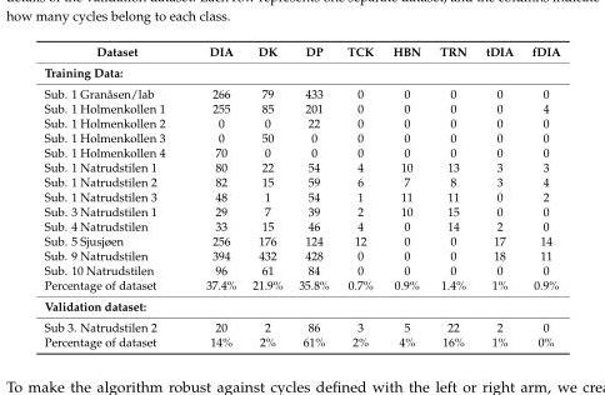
<table><thead><tr><td rowspan="2">Dataset Training Data:</td><td rowspan="2">DIA</td><td rowspan="2">DK</td><td rowspan="2">DP</td><td rowspan="2">TCK</td><td rowspan="2">HBN</td><td rowspan="2">TRN</td><td rowspan="2">tDIA</td><td rowspan="2">fDIA</td></tr><tr></tr></thead><tbody><tr><td>Sub. 1 Granåsen/lab</td><td>266</td><td>79</td><td>433</td><td>0</td><td>0</td><td>0</td><td>0</td><td>0</td></tr><tr><td>Sub. 1 Holmenkollen 1</td><td>255</td><td>85</td><td>201</td><td>0</td><td>0</td><td>0</td><td>0</td><td>4</td></tr><tr><td>Sub. 1 Holmenkollen 2</td><td>0</td><td>0</td><td>22</td><td>0</td><td>0</td><td>0</td><td>0</td><td>0</td></tr><tr><td>Sub. 1 Holmenkollen 3</td><td>0</td><td>50</td><td>0</td><td>0</td><td>0</td><td>0</td><td>0</td><td>0</td></tr><tr><td>Sub. 1 Holmenkollen 4</td><td>70</td><td>0</td><td>0</td><td>0</td><td>0</td><td>0</td><td>0</td><td>0</td></tr><tr><td>Sub. 1 Natrudstilen 1</td><td>80</td><td>22</td><td>54</td><td>4</td><td>10</td><td>13</td><td>3</td><td>3</td></tr><tr><td>Sub. 1 Natrudstilen 2</td><td>82</td><td>15</td><td>59</td><td>6</td><td>7</td><td>8</td><td>3</td><td>4</td></tr><tr><td>Sub. 1 Natrudstilen 3</td><td>48</td><td>1</td><td>54</td><td>1</td><td>11</td><td>11</td><td>0</td><td>2</td></tr><tr><td>Sub. 3 Natrudstilen 1</td><td>29</td><td>7</td><td>39</td><td>2</td><td>10</td><td>15</td><td>0</td><td>0</td></tr><tr><td>Sub. 4 Natrudstilen</td><td>33</td><td>15</td><td>46</td><td>4</td><td>0</td><td>14</td><td>2</td><td>0</td></tr><tr><td>Sub. 5 Sjusjøen</td><td>256</td><td>176</td><td>124</td><td>12</td><td>0</td><td>0</td><td>17</td><td>14</td></tr><tr><td>Sub. 9 Natrudstilen</td><td>394</td><td>432</td><td>428</td><td>0</td><td>0</td><td>0</td><td>18</td><td>11</td></tr><tr><td>Sub. 10 Natrudstilen</td><td>96</td><td>61</td><td>84</td><td>0</td><td>0</td><td>0</td><td>0</td><td>0</td></tr><tr><td>Percentage of dataset</td><td>37.4%</td><td>21.9%</td><td>35.8%</td><td>0.7%</td><td>0.9%</td><td>1.4%</td><td>1%</td><td>0.9%</td></tr><tr><td colspan="9">Validation dataset:</td></tr><tr><td>Sub 3. Natrudstilen 2</td><td>20</td><td>2</td><td>86</td><td>3</td><td>5</td><td>22</td><td>2</td><td>0</td></tr><tr><td>Percentage of dataset</td><td>14%</td><td>2%</td><td>61%</td><td>2%</td><td>4%</td><td>16%</td><td>1%</td><td>0%</td></tr></tbody></table>